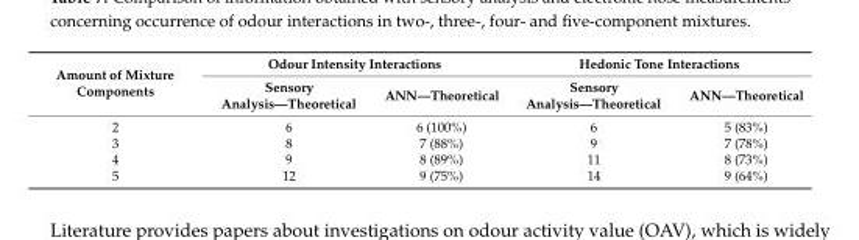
<table><thead><tr><td rowspan="2">Amount of Mixture Components</td><td colspan="2">Odour Intensity Interactions</td><td colspan="2">Hedonic Tone Interactions</td></tr><tr><td>Sensory Analysis—Theoretical</td><td>ANN—Theoretical</td><td>Sensory Analysis—Theoretical</td><td>ANN—Theoretical</td></tr></thead><tbody><tr><td>2</td><td>6</td><td>6 (100%)</td><td>6</td><td>5 (83%)</td></tr><tr><td>3</td><td>8</td><td>7 (88%)</td><td>9</td><td>7 (78%)</td></tr><tr><td>4</td><td>9</td><td>8 (89%)</td><td>11</td><td>8 (73%)</td></tr><tr><td>5</td><td>12</td><td>9 (75%)</td><td>14</td><td>9 (64%)</td></tr></tbody></table>